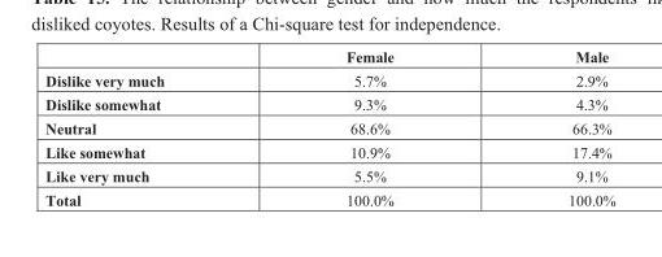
<table><thead><tr><td></td><td>Female</td><td>Male</td></tr></thead><tbody><tr><td>Dislike very much</td><td>5.7%</td><td>2.9%</td></tr><tr><td>Dislike somewhat</td><td>9.3%</td><td>4.3%</td></tr><tr><td>Neutral</td><td>68.6%</td><td>66.3%</td></tr><tr><td>Like somewhat</td><td>10.9%</td><td>17.4%</td></tr><tr><td>Like very much</td><td>5.5%</td><td>9.1%</td></tr><tr><td>Total</td><td>100.0%</td><td>100.0%</td></tr></tbody></table>